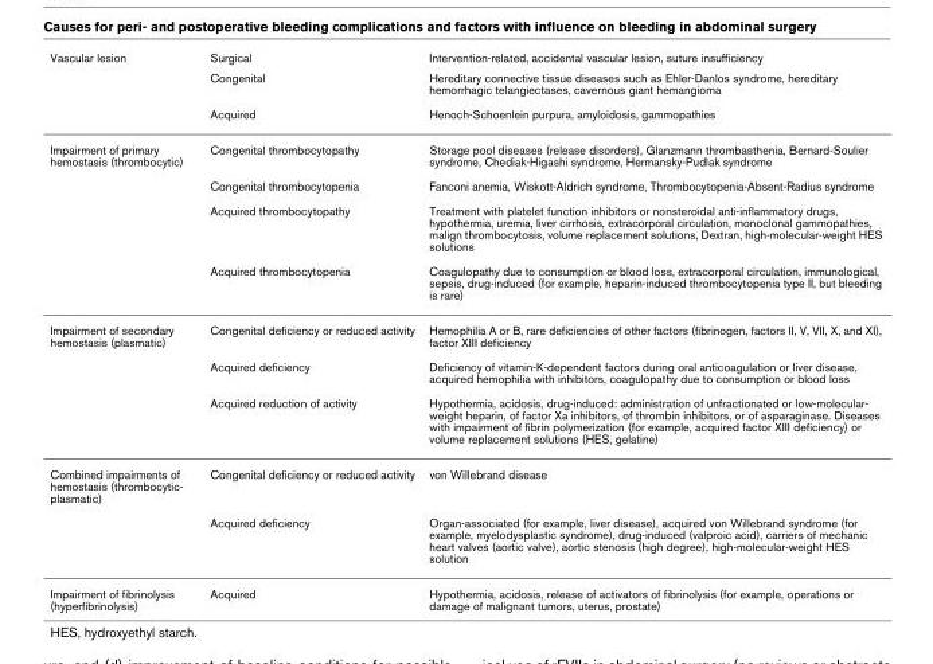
<table><thead><tr><td rowspan="3">Vascular lesion</td><td rowspan="3">Surgical Congenital Acquired</td><td rowspan="3">Intervention-related, accidental vascular lesion, suture insufficiency Hereditary connective tissue diseases such as Ehler-Danlos syndrome, hereditary hemorrhagic telangiectases, cavernous giant hemangioma Henoch-Schoenlein purpura, amyloidosis, gammopathies</td></tr><tr></tr><tr></tr></thead><tbody><tr><td rowspan="4">Impairment of primary hemostasis (thrombocytic)</td><td>Congenital thrombocytopathy</td><td>Storage pool diseases (release disorders), Glanzmann thrombasthenia, Bernard-Soulier syndrome, Chediak-Higashi syndrome, Hermansky-Pudlak syndrome</td></tr><tr><td>Congenital thrombocytopenia</td><td>Fanconi anemia, Wiskott-Aldrich syndrome, Thrombocytopenia-Absent-Radius syndrome</td></tr><tr><td>Acquired thrombocytopathy</td><td>Treatment with platelet function inhibitors or nonsteroidal anti-inflammatory drugs, hypothermia, uremia, liver cirrhosis, extracorporal circulation, monoclonal gammopathies, malign thrombocytosis, volume replacement solutions, Dextran, high-molecular-weight HES solutions</td></tr><tr><td>Acquired thrombocytopenia</td><td>Coagulopathy due to consumption or blood loss, extracorporal circulation, immunological, sepsis, drug-induced (for example, heparin-induced thrombocytopenia type II, but bleeding is rare)</td></tr><tr><td rowspan="3">Impairment of secondary hemostasis (plasmatic)</td><td>Congenital deficiency or reduced activity</td><td>Hemophilia A or B, rare deficiencies of other factors (fibrinogen, factors II, V, VII, X, and XI), factor XIII deficiency</td></tr><tr><td>Acquired deficiency</td><td>Deficiency of vitamin-K-dependent factors during oral anticoagulation or liver disease, acquired hemophilia with inhibitors, coagulopathy due to consumption or blood loss</td></tr><tr><td>Acquired reduction of activity</td><td>Hypothermia, acidosis, drug-induced: administration of unfractionated or low-molecular- weight heparin, of factor Xa inhibitors, of thrombin inhibitors, or of asparaginase. Diseases with impairment of fibrin polymerization (for example, acquired factor XIII deficiency) or volume replacement solutions (HES, gelatine)</td></tr><tr><td rowspan="2">Combined impairments of hemostasis (thrombocytic- plasmatic)</td><td>Congenital deficiency or reduced activity</td><td>von Willebrand disease</td></tr><tr><td>Acquired deficiency</td><td>Organ-associated (for example, liver disease), acquired von Willebrand syndrome (for example, myelodysplastic syndrome), drug-induced (valproic acid), carriers of mechanic heart valves (aortic valve), aortic stenosis (high degree), high-molecular-weight HES solution</td></tr><tr><td>Impairment of fibrinolysis (hyperfibrinolysis)</td><td>Acquired</td><td>Hypothermia, acidosis, release of activators of fibrinolysis (for example, operations or damage of malignant tumors, uterus, prostate)</td></tr></tbody></table>